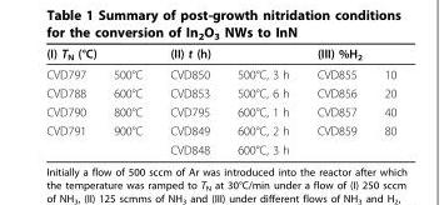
<table><thead><tr><td colspan="2">(I) T<sub>N</sub> (°C)</td><td colspan="2">(II) t (h)</td><td colspan="2">(III) %H<sub>2</sub></td></tr><tr><td>CVD797</td><td>500°C</td><td>CVD850</td><td>500°C, 3 h</td><td>CVD855</td><td>10</td></tr></thead><tbody><tr><td>CVD788</td><td>600°C</td><td>CVD853</td><td>500°C, 6 h</td><td>CVD856</td><td>20</td></tr><tr><td>CVD790</td><td>800°C</td><td>CVD795</td><td>600°C, 1 h</td><td>CVD857</td><td>40</td></tr><tr><td rowspan="2">CVD791</td><td>900°C</td><td>CVD849</td><td>600°C, 2 h</td><td>CVD859</td><td>80</td></tr><tr><td></td><td>CVD848</td><td>600°C, 3 h</td><td></td><td></td></tr></tbody></table>